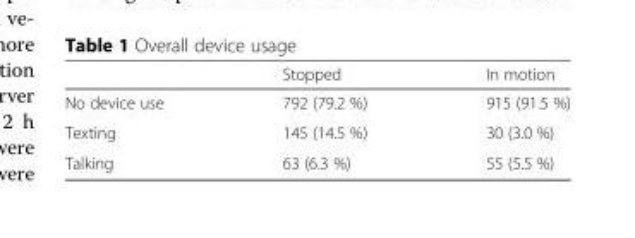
<table><thead><tr><td></td><td>Stopped</td><td>In motion</td></tr></thead><tbody><tr><td>No device use</td><td>792 (79.2 %)</td><td>915 (91.5 %)</td></tr><tr><td>Texting</td><td>145 (14.5 %)</td><td>30 (3.0 %)</td></tr><tr><td>Talking</td><td>63 (6.3 %)</td><td>55 (5.5 %)</td></tr></tbody></table>